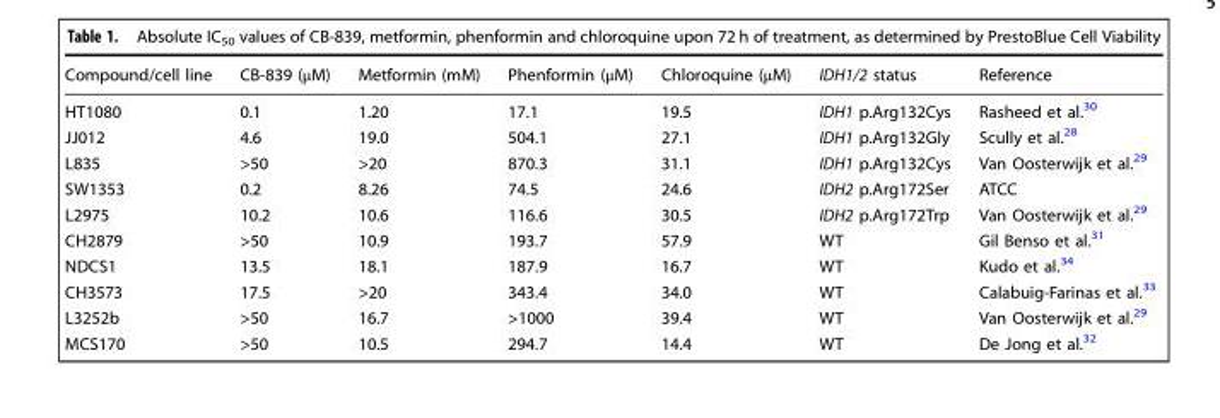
<table><thead><tr><td>Compound/cell line</td><td>CB-839 (μM)</td><td>Metformin (mM)</td><td>Phenformin (μM)</td><td>Chloroquine (μM)</td><td>IDH1/2 status</td><td>Reference</td></tr></thead><tbody><tr><td>HT1080</td><td>0.1</td><td>1.20</td><td>17.1</td><td>19.5</td><td>IDH1 p.Arg132Cys</td><td>Rasheed et al.<sup>30</sup></td></tr><tr><td>JJ012</td><td>4.6</td><td>19.0</td><td>504.1</td><td>27.1</td><td>IDH1 p.Arg132Gly</td><td>Scully et al.<sup>28</sup></td></tr><tr><td>L835</td><td>&gt;50</td><td>&gt;20</td><td>870.3</td><td>31.1</td><td>IDH1 p.Arg132Cys</td><td>Van Oosterwijk et al.<sup>29</sup></td></tr><tr><td>SW1353</td><td>0.2</td><td>8.26</td><td>74.5</td><td>24.6</td><td>IDH2 p.Arg172Ser</td><td>ATCC</td></tr><tr><td>L2975</td><td>10.2</td><td>10.6</td><td>116.6</td><td>30.5</td><td>IDH2 p.Arg172Trp</td><td>Van Oosterwijk et al.<sup>29</sup></td></tr><tr><td>CH2879</td><td>&gt;50</td><td>10.9</td><td>193.7</td><td>57.9</td><td>WT</td><td>Gil Benso et al.<sup>31</sup></td></tr><tr><td>NDCS1</td><td>13.5</td><td>18.1</td><td>187.9</td><td>16.7</td><td>WT</td><td>Kudo et al.<sup>34</sup></td></tr><tr><td>CH3573</td><td>17.5</td><td>&gt;20</td><td>343.4</td><td>34.0</td><td>WT</td><td>Calabuig-Farinas et al.<sup>33</sup></td></tr><tr><td>L3252b</td><td>&gt;50</td><td>16.7</td><td>&gt;1000</td><td>39.4</td><td>WT</td><td>Van Oosterwijk et al.<sup>29</sup></td></tr><tr><td>MCS170</td><td>&gt;50</td><td>10.5</td><td>294.7</td><td>14.4</td><td>WT</td><td>De Jong et al.<sup>32</sup></td></tr></tbody></table>